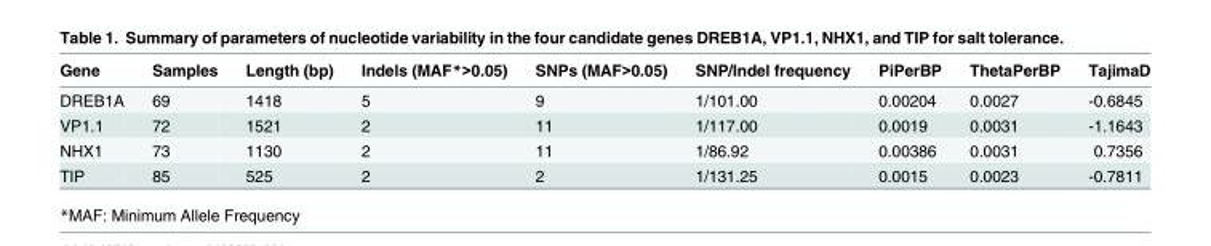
<table><thead><tr><td>Gene</td><td>Samples</td><td>Length (bp)</td><td>Indels (MAF*&gt;0.05)</td><td>SNPs (MAF&gt;0.05)</td><td>SNP/Indel frequency</td><td>PiPerBP</td><td>ThetaPerBP</td><td>TajimaD</td></tr></thead><tbody><tr><td>DREB1A</td><td>69</td><td>1418</td><td>5</td><td>9</td><td>1/101.00</td><td>0.00204</td><td>0.0027</td><td>-0.6845</td></tr><tr><td>VP1.1</td><td>72</td><td>1521</td><td>2</td><td>11</td><td>1/117.00</td><td>0.0019</td><td>0.0031</td><td>-1.1643</td></tr><tr><td>NHX1</td><td>73</td><td>1130</td><td>2</td><td>11</td><td>1/86.92</td><td>0.00386</td><td>0.0031</td><td>0.7356</td></tr><tr><td>TIP</td><td>85</td><td>525</td><td>2</td><td>2</td><td>1/131.25</td><td>0.0015</td><td>0.0023</td><td>-0.7811</td></tr></tbody></table>